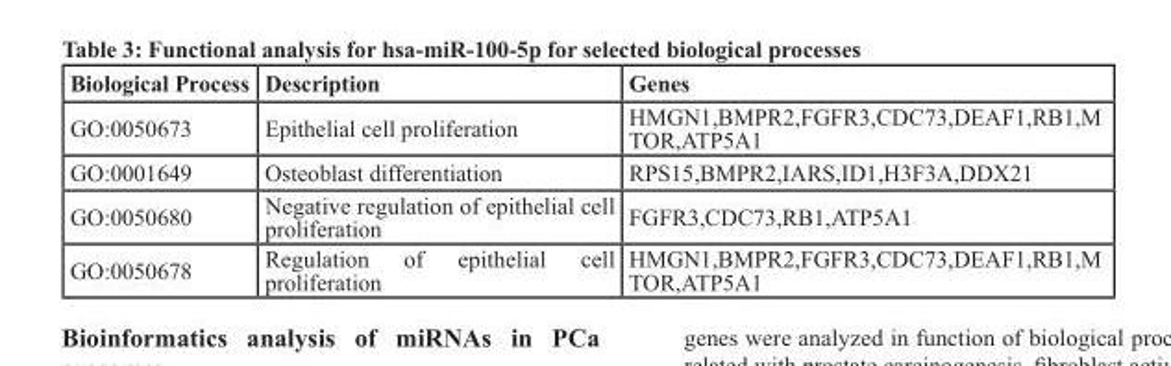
<table><thead><tr><td>Biological Process</td><td>Description</td><td>Genes</td></tr></thead><tbody><tr><td>GO:0050673</td><td>Epithelial cell proliferation</td><td>HMGN1,BMPR2,FGFR3,CDC73,DEAF1,RB1,M TOR,ATP5A1</td></tr><tr><td>GO:0001649</td><td>Osteoblast differentiation</td><td>RPS15,BMPR2,IARS,ID1,H3F3A,DDX21</td></tr><tr><td>GO:0050680</td><td>Negative regulation of epithelial cell proliferation</td><td>FGFR3,CDC73,RB1,ATP5A1</td></tr><tr><td>GO:0050678</td><td>Regulation of epithelial cell proliferation</td><td>HMGN1,BMPR2,FGFR3,CDC73,DEAF1,RB1,M TOR,ATP5A1</td></tr></tbody></table>